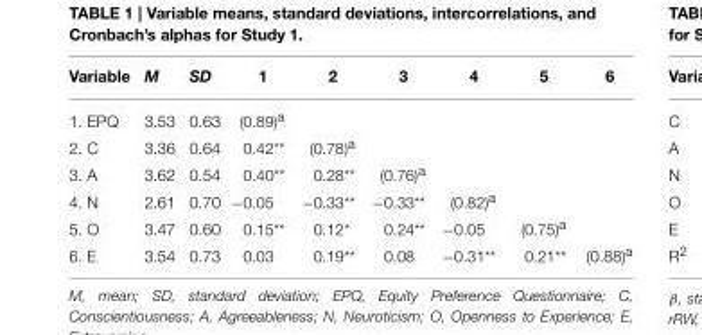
<table><thead><tr><td>Variable</td><td>M</td><td>SD</td><td>1</td><td>2</td><td>3</td><td>4</td><td>5</td><td>6</td></tr></thead><tbody><tr><td>1. EPQ</td><td>3.53</td><td>0.63</td><td>(0.89)<sup>a</sup></td><td></td><td></td><td></td><td></td><td></td></tr><tr><td>2. C</td><td>3.36</td><td>0.64</td><td>0.42**</td><td>(0.78)<sup>a</sup></td><td></td><td></td><td></td><td></td></tr><tr><td>3. A</td><td>3.62</td><td>0.54</td><td>0.40**</td><td>0.28**</td><td>(0.76)<sup>a</sup></td><td></td><td></td><td></td></tr><tr><td>4. N</td><td>2.61</td><td>0.70</td><td>−0.05</td><td>−0.33**</td><td>−0.33**</td><td>(0.82)<sup>a</sup></td><td></td><td></td></tr><tr><td>5. O</td><td>3.47</td><td>0.60</td><td>0.15**</td><td>0.12*</td><td>0.24**</td><td>−0.05</td><td>(0.75)<sup>a</sup></td><td></td></tr><tr><td>6. E</td><td>3.54</td><td>0.73</td><td>0.03</td><td>0.19**</td><td>0.08</td><td>−0.31**</td><td>0.21**</td><td>(0.88)<sup>a</sup></td></tr></tbody></table>